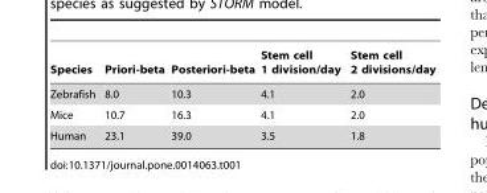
<table><thead><tr><td>Species</td><td>Priori-beta</td><td>Posteriori-beta</td><td>Stem cell 1 division/day</td><td>Stem cell 2 divisions/day</td></tr></thead><tbody><tr><td>Zebrafish</td><td>8.0</td><td>10.3</td><td>4.1</td><td>2.0</td></tr><tr><td>Mice</td><td>10.7</td><td>16.3</td><td>4.1</td><td>2.0</td></tr><tr><td>Human</td><td>23.1</td><td>39.0</td><td>3.5</td><td>1.8</td></tr></tbody></table>